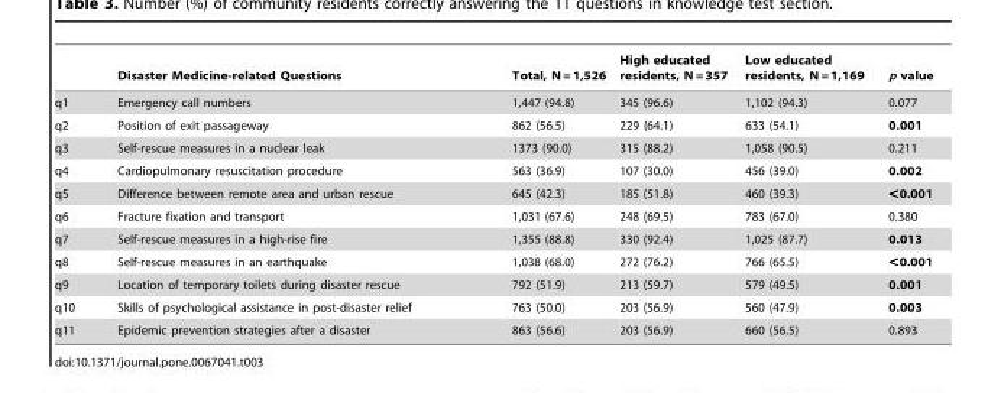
<table><thead><tr><td></td><td>Disaster Medicine-related Questions</td><td>Total, N = 1,526</td><td>High educated residents, N = 357</td><td>Low educated residents, N = 1,169</td><td>p value</td></tr></thead><tbody><tr><td>q1</td><td>Emergency call numbers</td><td>1,447 (94.8)</td><td>345 (96.6)</td><td>1,102 (94.3)</td><td>0.077</td></tr><tr><td>q2</td><td>Position of exit passageway</td><td>862 (56.5)</td><td>229 (64.1)</td><td>633 (54.1)</td><td>0.001</td></tr><tr><td>q3</td><td>Self-rescue measures in a nuclear leak</td><td>1373 (90.0)</td><td>315 (88.2)</td><td>1,058 (90.5)</td><td>0.211</td></tr><tr><td>q4</td><td>Cardiopulmonary resuscitation procedure</td><td>563 (36.9)</td><td>107 (30.0)</td><td>456 (39.0)</td><td>0.002</td></tr><tr><td>q5</td><td>Difference between remote area and urban rescue</td><td>645 (42.3)</td><td>185 (51.8)</td><td>460 (39.3)</td><td>&lt;0.001</td></tr><tr><td>q6</td><td>Fracture fixation and transport</td><td>1,031 (67.6)</td><td>248 (69.5)</td><td>783 (67.0)</td><td>0.380</td></tr><tr><td>q7</td><td>Self-rescue measures in a high-rise fire</td><td>1,355 (88.8)</td><td>330 (92.4)</td><td>1,025 (87.7)</td><td>0.013</td></tr><tr><td>q8</td><td>Self-rescue measures in an earthquake</td><td>1,038 (68.0)</td><td>272 (76.2)</td><td>766 (65.5)</td><td>&lt;0.001</td></tr><tr><td>q9</td><td>Location of temporary toilets during disaster rescue</td><td>792 (51.9)</td><td>213 (59.7)</td><td>579 (49.5)</td><td>0.001</td></tr><tr><td>q10</td><td>Skills of psychological assistance in post-disaster relief</td><td>763 (50.0)</td><td>203 (56.9)</td><td>560 (47.9)</td><td>0.003</td></tr><tr><td>q11</td><td>Epidemic prevention strategies after a disaster</td><td>863 (56.6)</td><td>203 (56.9)</td><td>660 (56.5)</td><td>0.893</td></tr></tbody></table>